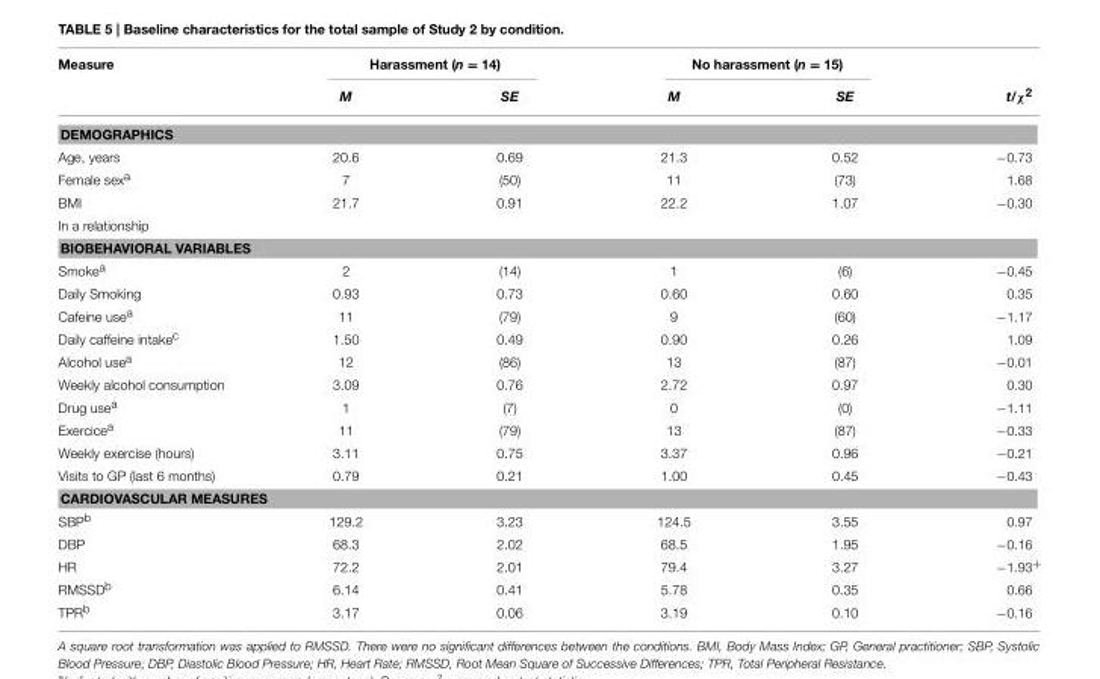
<table><thead><tr><td rowspan="2">Measure</td><td colspan="2">Harassment (n = 14)</td><td colspan="2">No harassment (n = 15)</td><td rowspan="2">t/χ<sup>2</sup></td></tr><tr><td>M</td><td>SE</td><td>M</td><td>SE</td></tr></thead><tbody><tr><td colspan="6">DEMOGRAPHICS</td></tr><tr><td>Age, years</td><td>20.6</td><td>0.69</td><td>21.3</td><td>0.52</td><td>−0.73</td></tr><tr><td>Female sex<sup>a</sup></td><td>7</td><td>(50)</td><td>11</td><td>(73)</td><td>1.68</td></tr><tr><td>BMI</td><td>21.7</td><td>0.91</td><td>22.2</td><td>1.07</td><td>−0.30</td></tr><tr><td colspan="6">In a relationship</td></tr><tr><td colspan="6">BIOBEHAVIORAL VARIABLES</td></tr><tr><td>Smoke<sup>a</sup></td><td>2</td><td>(14)</td><td>1</td><td>(6)</td><td>−0.45</td></tr><tr><td>Daily Smoking</td><td>0.93</td><td>0.73</td><td>0.60</td><td>0.60</td><td>0.35</td></tr><tr><td>Cafeine use<sup>a</sup></td><td>11</td><td>(79)</td><td>9</td><td>(60)</td><td>−1.17</td></tr><tr><td>Daily caffeine intake<sup>c</sup></td><td>1.50</td><td>0.49</td><td>0.90</td><td>0.26</td><td>1.09</td></tr><tr><td>Alcohol use<sup>a</sup></td><td>12</td><td>(86)</td><td>13</td><td>(87)</td><td>−0.01</td></tr><tr><td>Weekly alcohol consumption</td><td>3.09</td><td>0.76</td><td>2.72</td><td>0.97</td><td>0.30</td></tr><tr><td>Drug use<sup>a</sup></td><td>1</td><td>(7)</td><td>0</td><td>(0)</td><td>−1.11</td></tr><tr><td>Exercice<sup>a</sup></td><td>11</td><td>(79)</td><td>13</td><td>(87)</td><td>−0.33</td></tr><tr><td>Weekly exercise (hours)</td><td>3.11</td><td>0.75</td><td>3.37</td><td>0.96</td><td>−0.21</td></tr><tr><td>Visits to GP (last 6 months)</td><td>0.79</td><td>0.21</td><td>1.00</td><td>0.45</td><td>−0.43</td></tr><tr><td colspan="6">CARDIOVASCULAR MEASURES</td></tr><tr><td>SBP<sup>b</sup></td><td>129.2</td><td>3.23</td><td>124.5</td><td>3.55</td><td>0.97</td></tr><tr><td>DBP</td><td>68.3</td><td>2.02</td><td>68.5</td><td>1.95</td><td>−0.16</td></tr><tr><td>HR</td><td>72.2</td><td>2.01</td><td>79.4</td><td>3.27</td><td>−1.93<sup>+</sup></td></tr><tr><td>RMSSD<sup>b</sup></td><td>6.14</td><td>0.41</td><td>5.78</td><td>0.35</td><td>0.66</td></tr><tr><td>TPR<sup>b</sup></td><td>3.17</td><td>0.06</td><td>3.19</td><td>0.10</td><td>−0.16</td></tr></tbody></table>